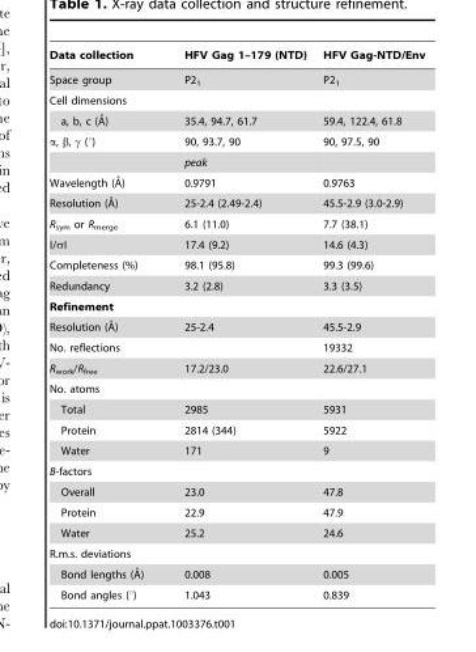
<table><thead><tr><td>Data collection</td><td>HFV Gag 1–179 (NTD)</td><td>HFV Gag-NTD/Env</td></tr></thead><tbody><tr><td>Space group</td><td>P2<sub>1</sub></td><td>P2<sub>1</sub></td></tr><tr><td colspan="3">Cell dimensions</td></tr><tr><td>a, b, c (A˚)</td><td>35.4, 94.7, 61.7</td><td>59.4, 122.4, 61.8</td></tr><tr><td rowspan="2">α, β, γ (°)</td><td>90, 93.7, 90</td><td>90, 97.5, 90</td></tr><tr><td>peak</td><td></td></tr><tr><td>Wavelength (A˚)</td><td>0.9791</td><td>0.9763</td></tr><tr><td>Resolution (A˚)</td><td>25-2.4 (2.49-2.4)</td><td>45.5-2.9 (3.0-2.9)</td></tr><tr><td>R<sub>sym</sub> or R<sub>merge</sub></td><td>6.1 (11.0)</td><td>7.7 (38.1)</td></tr><tr><td>I/σI</td><td>17.4 (9.2)</td><td>14.6 (4.3)</td></tr><tr><td>Completeness (%)</td><td>98.1 (95.8)</td><td>99.3 (99.6)</td></tr><tr><td>Redundancy</td><td>3.2 (2.8)</td><td>3.3 (3.5)</td></tr><tr><td colspan="3">Refinement</td></tr><tr><td>Resolution (A˚)</td><td>25-2.4</td><td>45.5-2.9</td></tr><tr><td>No. reflections</td><td></td><td>19332</td></tr><tr><td>R<sub>work</sub>/R<sub>free</sub></td><td>17.2/23.0</td><td>22.6/27.1</td></tr><tr><td colspan="3">No. atoms</td></tr><tr><td>Total</td><td>2985</td><td>5931</td></tr><tr><td>Protein</td><td>2814 (344)</td><td>5922</td></tr><tr><td>Water</td><td>171</td><td>9</td></tr><tr><td colspan="3">B-factors</td></tr><tr><td>Overall</td><td>23.0</td><td>47.8</td></tr><tr><td>Protein</td><td>22.9</td><td>47.9</td></tr><tr><td>Water</td><td>25.2</td><td>24.6</td></tr><tr><td colspan="3">R.m.s. deviations</td></tr><tr><td>Bond lengths (A˚)</td><td>0.008</td><td>0.005</td></tr><tr><td>Bond angles (°)</td><td>1.043</td><td>0.839</td></tr></tbody></table>